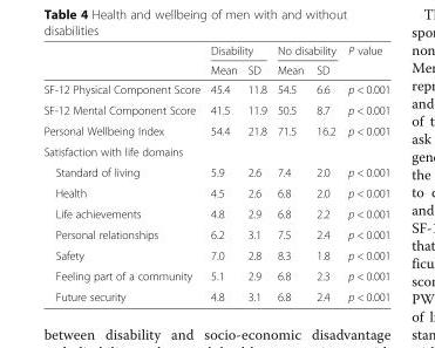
<table><thead><tr><td rowspan="2"></td><td colspan="2">Disability</td><td colspan="2">No disability</td><td rowspan="2">P value</td></tr><tr><td>Mean</td><td>SD</td><td>Mean</td><td>SD</td></tr></thead><tbody><tr><td>SF-12 Physical Component Score</td><td>45.4</td><td>11.8</td><td>54.5</td><td>6.6</td><td>p &lt; 0.001</td></tr><tr><td>SF-12 Mental Component Score</td><td>41.5</td><td>11.9</td><td>50.5</td><td>8.7</td><td>p &lt; 0.001</td></tr><tr><td>Personal Wellbeing Index</td><td>54.4</td><td>21.8</td><td>71.5</td><td>16.2</td><td>p &lt; 0.001</td></tr><tr><td colspan="6">Satisfaction with life domains</td></tr><tr><td>Standard of living</td><td>5.9</td><td>2.6</td><td>7.4</td><td>2.0</td><td>p &lt; 0.001</td></tr><tr><td>Health</td><td>4.5</td><td>2.6</td><td>6.8</td><td>2.0</td><td>p &lt; 0.001</td></tr><tr><td>Life achievements</td><td>4.8</td><td>2.9</td><td>6.8</td><td>2.2</td><td>p &lt; 0.001</td></tr><tr><td>Personal relationships</td><td>6.2</td><td>3.1</td><td>7.5</td><td>2.4</td><td>p &lt; 0.001</td></tr><tr><td>Safety</td><td>7.0</td><td>2.8</td><td>8.3</td><td>1.8</td><td>p &lt; 0.001</td></tr><tr><td>Feeling part of a community</td><td>5.1</td><td>2.9</td><td>6.8</td><td>2.3</td><td>p &lt; 0.001</td></tr><tr><td>Future security</td><td>4.8</td><td>3.1</td><td>6.8</td><td>2.4</td><td>p &lt; 0.001</td></tr></tbody></table>